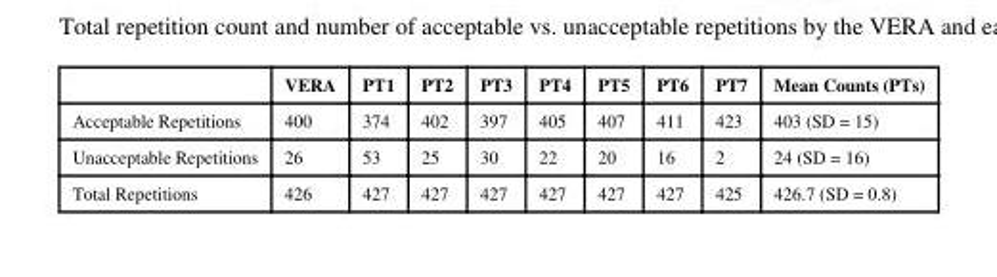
<table><thead><tr><td></td><td>VERA</td><td>PT1</td><td>PT2</td><td>PT3</td><td>PT4</td><td>PT5</td><td>PT6</td><td>PT7</td><td>Mean Counts (PTs)</td></tr></thead><tbody><tr><td>Acceptable Repetitions</td><td>400</td><td>374</td><td>402</td><td>397</td><td>405</td><td>407</td><td>411</td><td>423</td><td>403 (SD = 15)</td></tr><tr><td>Unacceptable Repetitions</td><td>26</td><td>53</td><td>25</td><td>30</td><td>22</td><td>20</td><td>16</td><td>2</td><td>24 (SD = 16)</td></tr><tr><td>Total Repetitions</td><td>426</td><td>427</td><td>427</td><td>427</td><td>427</td><td>427</td><td>427</td><td>425</td><td>426.7 (SD = 0.8)</td></tr></tbody></table>